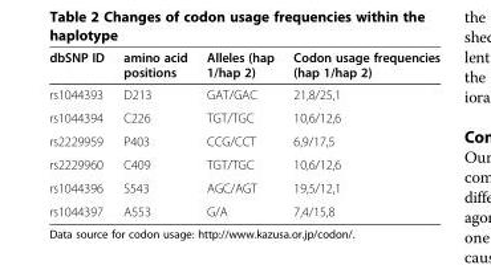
<table><thead><tr><td>dbSNP ID</td><td>amino acid positions</td><td>Alleles (hap 1/hap 2)</td><td>Codon usage frequencies (hap 1/hap 2)</td></tr></thead><tbody><tr><td>rs1044393</td><td>D213</td><td>GAT/GAC</td><td>21,8/25,1</td></tr><tr><td>rs1044394</td><td>C226</td><td>TGT/TGC</td><td>10,6/12,6</td></tr><tr><td>rs2229959</td><td>P403</td><td>CCG/CCT</td><td>6,9/17,5</td></tr><tr><td>rs2229960</td><td>C409</td><td>TGT/TGC</td><td>10,6/12,6</td></tr><tr><td>rs1044396</td><td>S543</td><td>AGC/AGT</td><td>19,5/12,1</td></tr><tr><td>rs1044397</td><td>A553</td><td>G/A</td><td>7,4/15,8</td></tr></tbody></table>